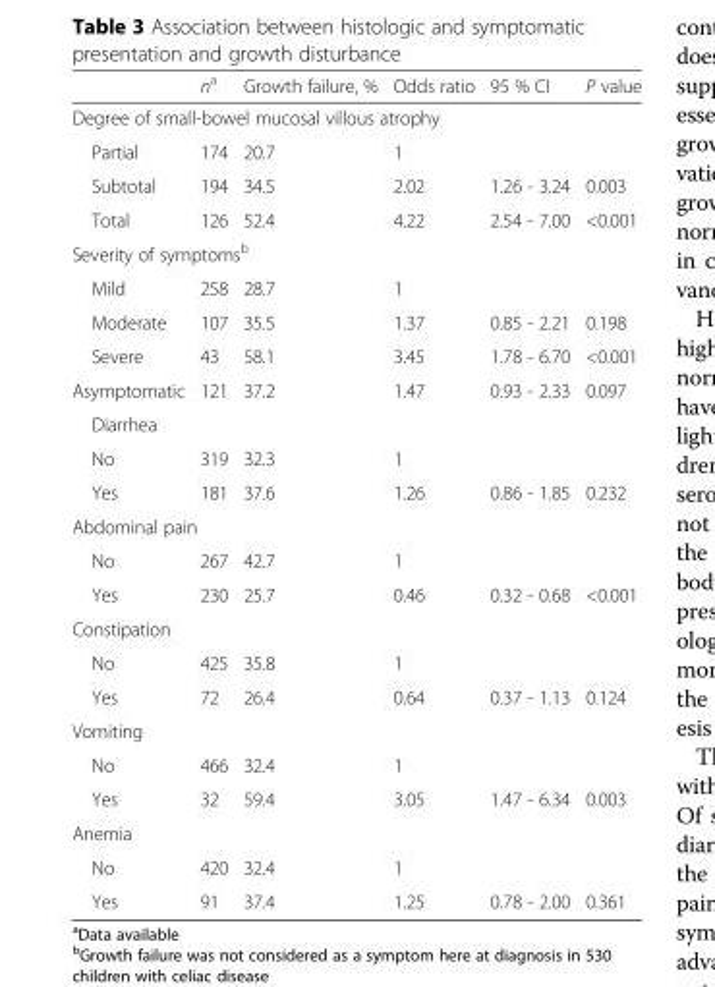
<table><thead><tr><td></td><td>n<sup>a</sup></td><td>Growth failure, %</td><td>Odds ratio</td><td>95 % CI</td><td>P value</td></tr></thead><tbody><tr><td colspan="6">Degree of small-bowel mucosal villous atrophy</td></tr><tr><td>Partial</td><td>174</td><td>20.7</td><td>1</td><td></td><td></td></tr><tr><td>Subtotal</td><td>194</td><td>34.5</td><td>2.02</td><td>1.26 - 3.24</td><td>0.003</td></tr><tr><td>Total</td><td>126</td><td>52.4</td><td>4.22</td><td>2.54 - 7.00</td><td>&lt;0.001</td></tr><tr><td colspan="6">Severity of symptoms<sup>b</sup></td></tr><tr><td>Mild</td><td>258</td><td>28.7</td><td>1</td><td></td><td></td></tr><tr><td>Moderate</td><td>107</td><td>35.5</td><td>1.37</td><td>0.85 - 2.21</td><td>0.198</td></tr><tr><td>Severe</td><td>43</td><td>58.1</td><td>3.45</td><td>1.78 - 6.70</td><td>&lt;0.001</td></tr><tr><td>Asymptomatic</td><td>121</td><td>37.2</td><td>1.47</td><td>0.93 - 2.33</td><td>0.097</td></tr><tr><td colspan="6">Diarrhea</td></tr><tr><td>No</td><td>319</td><td>32.3</td><td>1</td><td></td><td></td></tr><tr><td>Yes</td><td>181</td><td>37.6</td><td>1.26</td><td>0.86 - 1.85</td><td>0.232</td></tr><tr><td colspan="6">Abdominal pain</td></tr><tr><td>No</td><td>267</td><td>42.7</td><td>1</td><td></td><td></td></tr><tr><td>Yes</td><td>230</td><td>25.7</td><td>0.46</td><td>0.32 - 0.68</td><td>&lt;0.001</td></tr><tr><td colspan="6">Constipation</td></tr><tr><td>No</td><td>425</td><td>35.8</td><td>1</td><td></td><td></td></tr><tr><td>Yes</td><td>72</td><td>26.4</td><td>0.64</td><td>0.37 - 1.13</td><td>0.124</td></tr><tr><td colspan="6">Vomiting</td></tr><tr><td>No</td><td>466</td><td>32.4</td><td>1</td><td></td><td></td></tr><tr><td>Yes</td><td>32</td><td>59.4</td><td>3.05</td><td>1.47 - 6.34</td><td>0.003</td></tr><tr><td colspan="6">Anemia</td></tr><tr><td>No</td><td>420</td><td>32.4</td><td>1</td><td></td><td></td></tr><tr><td>Yes</td><td>91</td><td>37.4</td><td>1.25</td><td>0.78 - 2.00</td><td>0.361</td></tr></tbody></table>